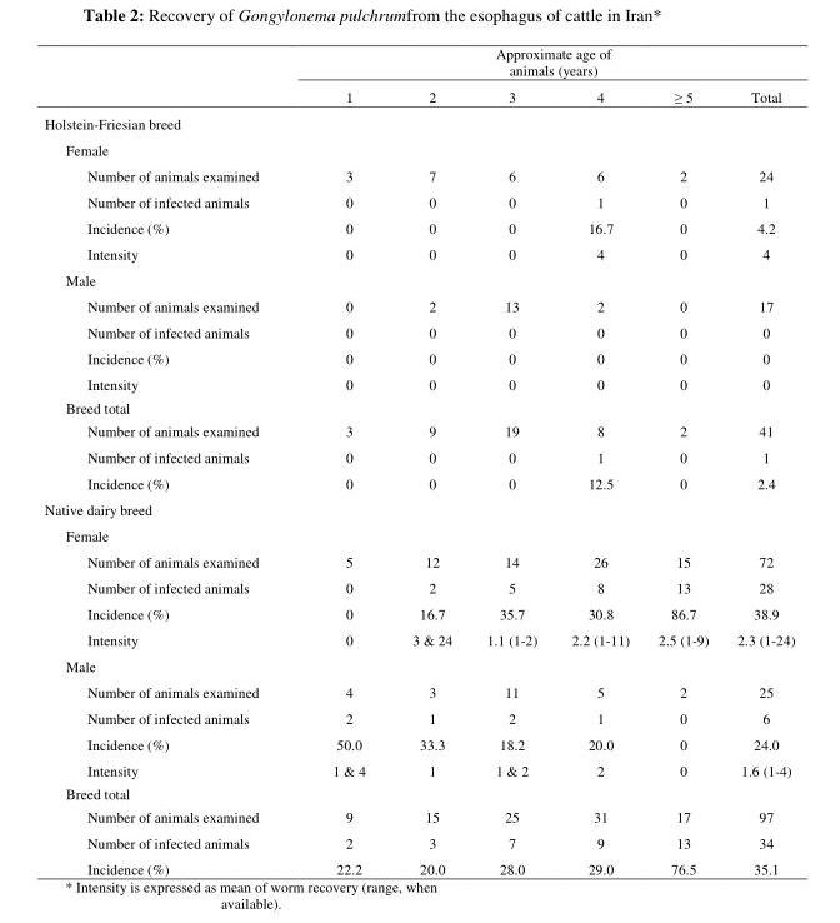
<table><thead><tr><td rowspan="2"></td><td colspan="6">Approximate age of animals (years)</td></tr><tr><td>1</td><td>2</td><td>3</td><td>4</td><td>≥ 5</td><td>Total</td></tr></thead><tbody><tr><td colspan="7">Holstein-Friesian breed</td></tr><tr><td colspan="7">Female</td></tr><tr><td>Number of animals examined</td><td>3</td><td>7</td><td>6</td><td>6</td><td>2</td><td>24</td></tr><tr><td>Number of infected animals</td><td>0</td><td>0</td><td>0</td><td>1</td><td>0</td><td>1</td></tr><tr><td>Incidence (%)</td><td>0</td><td>0</td><td>0</td><td>16.7</td><td>0</td><td>4.2</td></tr><tr><td>Intensity</td><td>0</td><td>0</td><td>0</td><td>4</td><td>0</td><td>4</td></tr><tr><td colspan="7">Male</td></tr><tr><td>Number of animals examined</td><td>0</td><td>2</td><td>13</td><td>2</td><td>0</td><td>17</td></tr><tr><td>Number of infected animals</td><td>0</td><td>0</td><td>0</td><td>0</td><td>0</td><td>0</td></tr><tr><td>Incidence (%)</td><td>0</td><td>0</td><td>0</td><td>0</td><td>0</td><td>0</td></tr><tr><td>Intensity</td><td>0</td><td>0</td><td>0</td><td>0</td><td>0</td><td>0</td></tr><tr><td colspan="7">Breed total</td></tr><tr><td>Number of animals examined</td><td>3</td><td>9</td><td>19</td><td>8</td><td>2</td><td>41</td></tr><tr><td>Number of infected animals</td><td>0</td><td>0</td><td>0</td><td>1</td><td>0</td><td>1</td></tr><tr><td>Incidence (%)</td><td>0</td><td>0</td><td>0</td><td>12.5</td><td>0</td><td>2.4</td></tr><tr><td colspan="7">Native dairy breed</td></tr><tr><td colspan="7">Female</td></tr><tr><td>Number of animals examined</td><td>5</td><td>12</td><td>14</td><td>26</td><td>15</td><td>72</td></tr><tr><td>Number of infected animals</td><td>0</td><td>2</td><td>5</td><td>8</td><td>13</td><td>28</td></tr><tr><td>Incidence (%)</td><td>0</td><td>16.7</td><td>35.7</td><td>30.8</td><td>86.7</td><td>38.9</td></tr><tr><td>Intensity</td><td>0</td><td>3 &amp; 24</td><td>1.1 (1-2)</td><td>2.2 (1-11)</td><td>2.5 (1-9)</td><td>2.3 (1-24)</td></tr><tr><td colspan="7">Male</td></tr><tr><td>Number of animals examined</td><td>4</td><td>3</td><td>11</td><td>5</td><td>2</td><td>25</td></tr><tr><td>Number of infected animals</td><td>2</td><td>1</td><td>2</td><td>1</td><td>0</td><td>6</td></tr><tr><td>Incidence (%)</td><td>50.0</td><td>33.3</td><td>18.2</td><td>20.0</td><td>0</td><td>24.0</td></tr><tr><td>Intensity</td><td>1 &amp; 4</td><td>1</td><td>1 &amp; 2</td><td>2</td><td>0</td><td>1.6 (1-4)</td></tr><tr><td colspan="7">Breed total</td></tr><tr><td>Number of animals examined</td><td>9</td><td>15</td><td>25</td><td>31</td><td>17</td><td>97</td></tr><tr><td>Number of infected animals</td><td>2</td><td>3</td><td>7</td><td>9</td><td>13</td><td>34</td></tr><tr><td>Incidence (%)</td><td>22.2</td><td>20.0</td><td>28.0</td><td>29.0</td><td>76.5</td><td>35.1</td></tr></tbody></table>